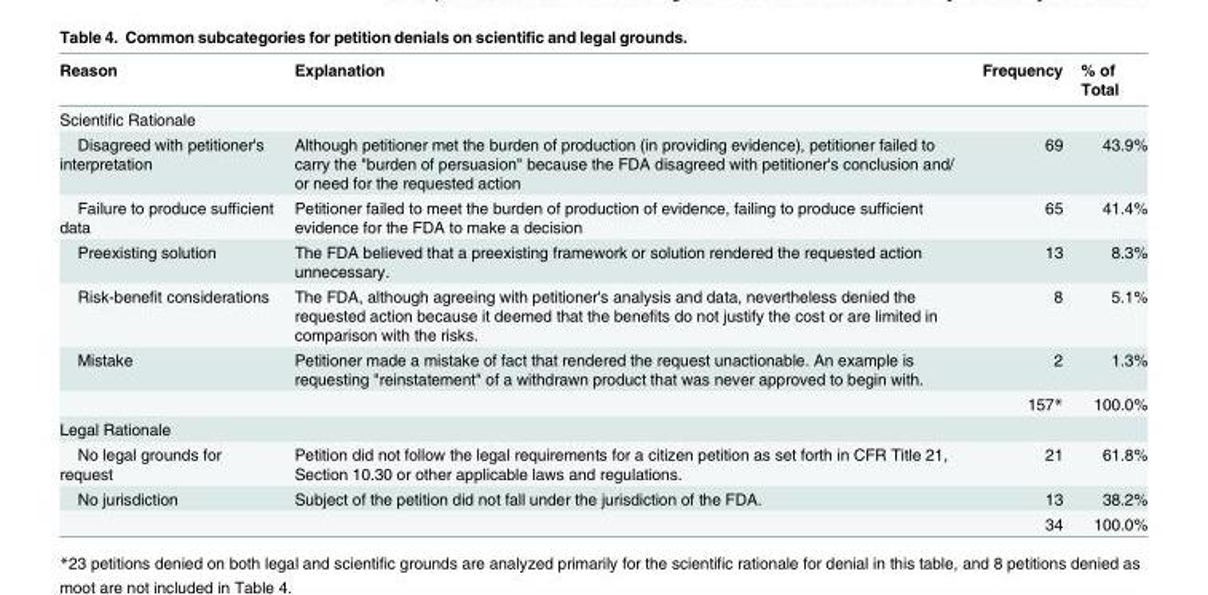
<table><thead><tr><td>Reason</td><td>Explanation</td><td>Frequency</td><td>% of Total</td></tr></thead><tbody><tr><td colspan="4">Scientific Rationale</td></tr><tr><td>Disagreed with petitioner&#x27;s interpretation</td><td>Although petitioner met the burden of production (in providing evidence), petitioner failed to carry the &quot;burden of persuasion&quot; because the FDA disagreed with petitioner&#x27;s conclusion and/ or need for the requested action</td><td>69</td><td>43.9%</td></tr><tr><td>Failure to produce sufficient data</td><td>Petitioner failed to meet the burden of production of evidence, failing to produce sufficient evidence for the FDA to make a decision</td><td>65</td><td>41.4%</td></tr><tr><td>Preexisting solution</td><td>The FDA believed that a preexisting framework or solution rendered the requested action unnecessary.</td><td>13</td><td>8.3%</td></tr><tr><td>Risk-benefit considerations</td><td>The FDA, although agreeing with petitioner&#x27;s analysis and data, nevertheless denied the requested action because it deemed that the benefits do not justify the cost or are limited in comparison with the risks.</td><td>8</td><td>5.1%</td></tr><tr><td rowspan="2">Mistake</td><td>Petitioner made a mistake of fact that rendered the request unactionable. An example is requesting &quot;reinstatement&quot; of a withdrawn product that was never approved to begin with.</td><td>2</td><td>1.3%</td></tr><tr><td></td><td>157*</td><td>100.0%</td></tr><tr><td colspan="4">Legal Rationale</td></tr><tr><td>No legal grounds for request</td><td>Petition did not follow the legal requirements for a citizen petition as set forth in CFR Title 21, Section 10.30 or other applicable laws and regulations.</td><td>21</td><td>61.8%</td></tr><tr><td rowspan="2">No jurisdiction</td><td>Subject of the petition did not fall under the jurisdiction of the FDA.</td><td>13</td><td>38.2%</td></tr><tr><td></td><td>34</td><td>100.0%</td></tr></tbody></table>